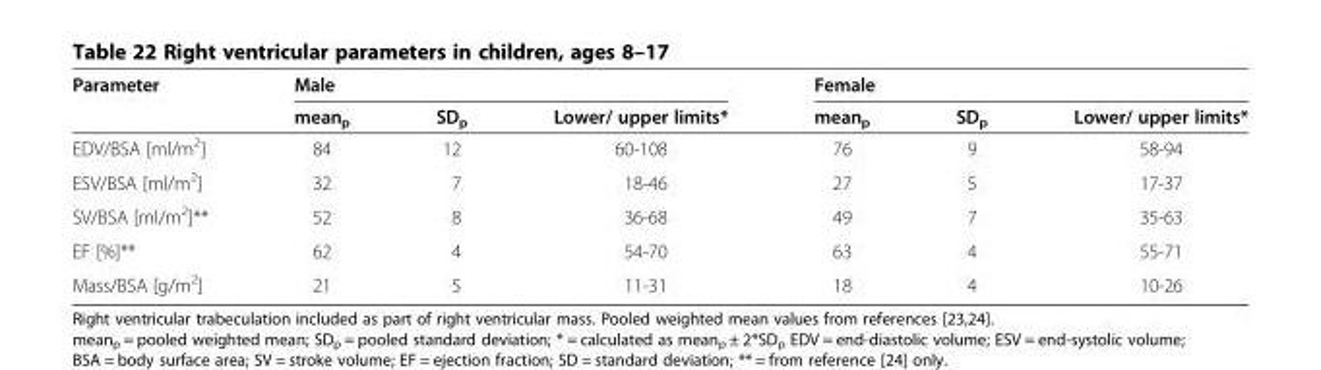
<table><thead><tr><td rowspan="2">Parameter</td><td colspan="3">Male</td><td colspan="3">Female</td></tr><tr><td>mean<sub>p</sub></td><td>SD<sub>p</sub></td><td>Lower/ upper limits*</td><td>mean<sub>p</sub></td><td>SD<sub>p</sub></td><td>Lower/ upper limits*</td></tr></thead><tbody><tr><td>EDV/BSA [ml/m<sup>2</sup>]</td><td>84</td><td>12</td><td>60-108</td><td>76</td><td>9</td><td>58-94</td></tr><tr><td>ESV/BSA [ml/m<sup>2</sup>]</td><td>32</td><td>7</td><td>18-46</td><td>27</td><td>5</td><td>17-37</td></tr><tr><td>SV/BSA [ml/m<sup>2</sup>]**</td><td>52</td><td>8</td><td>36-68</td><td>49</td><td>7</td><td>35-63</td></tr><tr><td>EF [%]**</td><td>62</td><td>4</td><td>54-70</td><td>63</td><td>4</td><td>55-71</td></tr><tr><td>Mass/BSA [g/m<sup>2</sup>]</td><td>21</td><td>5</td><td>11-31</td><td>18</td><td>4</td><td>10-26</td></tr></tbody></table>